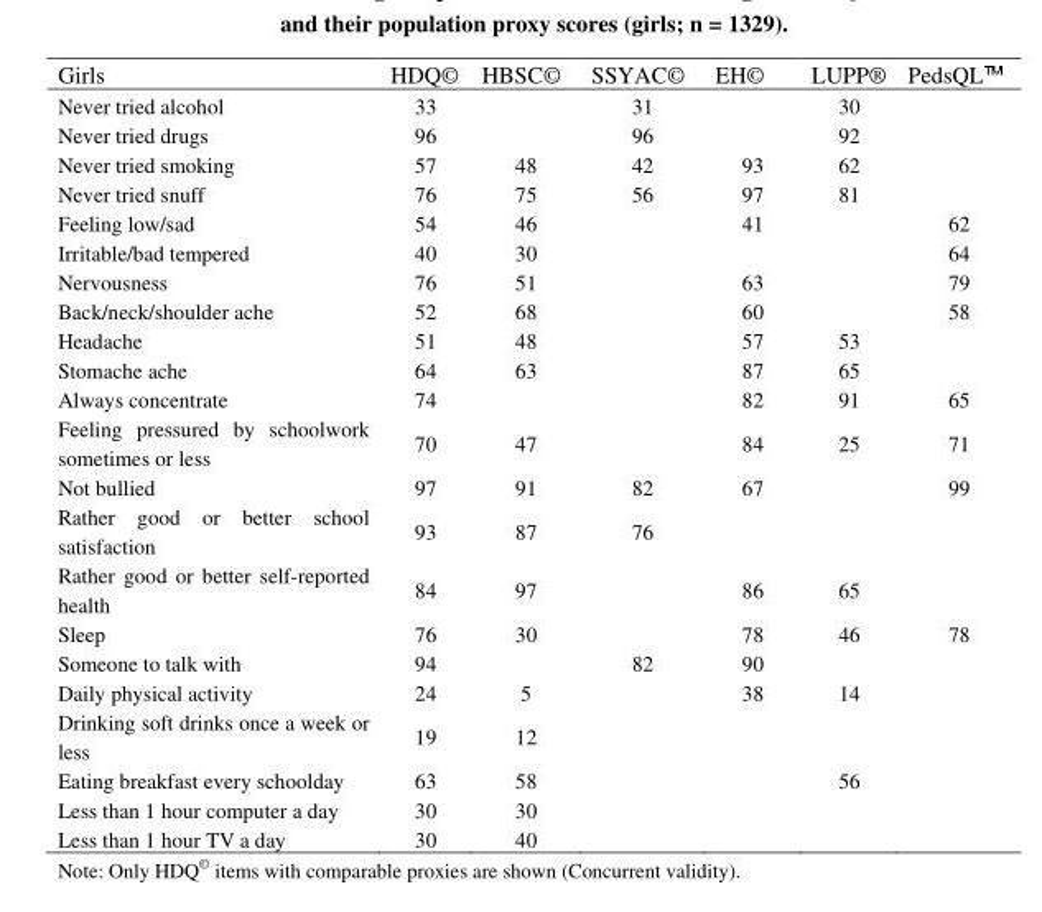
<table><thead><tr><td>Girls</td><td>HDQ©</td><td>HBSC©</td><td>SSYAC©</td><td>EH©</td><td>LUPP®</td><td>PedsQL</td></tr></thead><tbody><tr><td>Never tried alcohol</td><td>33</td><td></td><td>31</td><td></td><td>30</td><td></td></tr><tr><td>Never tried drugs</td><td>96</td><td></td><td>96</td><td></td><td>92</td><td></td></tr><tr><td>Never tried smoking</td><td>57</td><td>48</td><td>42</td><td>93</td><td>62</td><td></td></tr><tr><td>Never tried snuff</td><td>76</td><td>75</td><td>56</td><td>97</td><td>81</td><td></td></tr><tr><td>Feeling low/sad</td><td>54</td><td>46</td><td></td><td>41</td><td></td><td>62</td></tr><tr><td>Irritable/bad tempered</td><td>40</td><td>30</td><td></td><td></td><td></td><td>64</td></tr><tr><td>Nervousness</td><td>76</td><td>51</td><td></td><td>63</td><td></td><td>79</td></tr><tr><td>Back/neck/shoulder ache</td><td>52</td><td>68</td><td></td><td>60</td><td></td><td>58</td></tr><tr><td>Headache</td><td>51</td><td>48</td><td></td><td>57</td><td>53</td><td></td></tr><tr><td>Stomache ache</td><td>64</td><td>63</td><td></td><td>87</td><td>65</td><td></td></tr><tr><td>Always concentrate</td><td>74</td><td></td><td></td><td>82</td><td>91</td><td>65</td></tr><tr><td>Feeling pressured by schoolwork sometimes or less</td><td>70</td><td>47</td><td></td><td>84</td><td>25</td><td>71</td></tr><tr><td>Not bullied</td><td>97</td><td>91</td><td>82</td><td>67</td><td></td><td>99</td></tr><tr><td>Rather good or better school satisfaction</td><td>93</td><td>87</td><td>76</td><td></td><td></td><td></td></tr><tr><td>Rather good or better self-reported health</td><td>84</td><td>97</td><td></td><td>86</td><td>65</td><td></td></tr><tr><td>Sleep</td><td>76</td><td>30</td><td></td><td>78</td><td>46</td><td>78</td></tr><tr><td>Someone to talk with</td><td>94</td><td></td><td>82</td><td>90</td><td></td><td></td></tr><tr><td>Daily physical activity</td><td>24</td><td>5</td><td></td><td>38</td><td>14</td><td></td></tr><tr><td>Drinking soft drinks once a week or less</td><td>19</td><td>12</td><td></td><td></td><td></td><td></td></tr><tr><td>Eating breakfast every schoolday</td><td>63</td><td>58</td><td></td><td></td><td>56</td><td></td></tr><tr><td>Less than 1 hour computer a day</td><td>30</td><td>30</td><td></td><td></td><td></td><td></td></tr><tr><td>Less than 1 hour TV a day</td><td>30</td><td>40</td><td></td><td></td><td></td><td></td></tr></tbody></table>